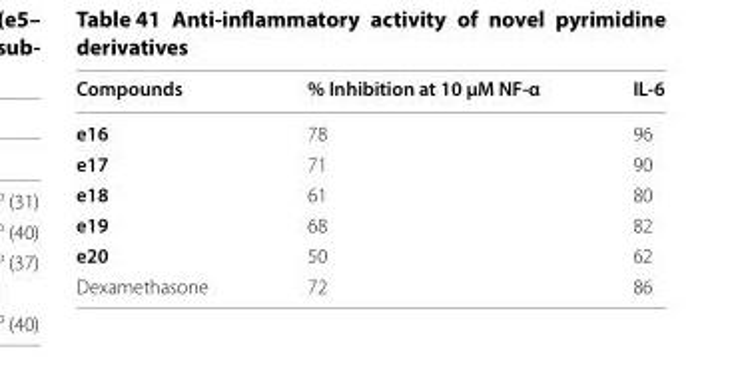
<table><thead><tr><td>Compounds</td><td>% Inhibition at 10 µM NF-α</td><td>IL-6</td></tr></thead><tbody><tr><td>e16</td><td>78</td><td>96</td></tr><tr><td>e17</td><td>71</td><td>90</td></tr><tr><td>e18</td><td>61</td><td>80</td></tr><tr><td>e19</td><td>68</td><td>82</td></tr><tr><td>e20</td><td>50</td><td>62</td></tr><tr><td>Dexamethasone</td><td>72</td><td>86</td></tr></tbody></table>